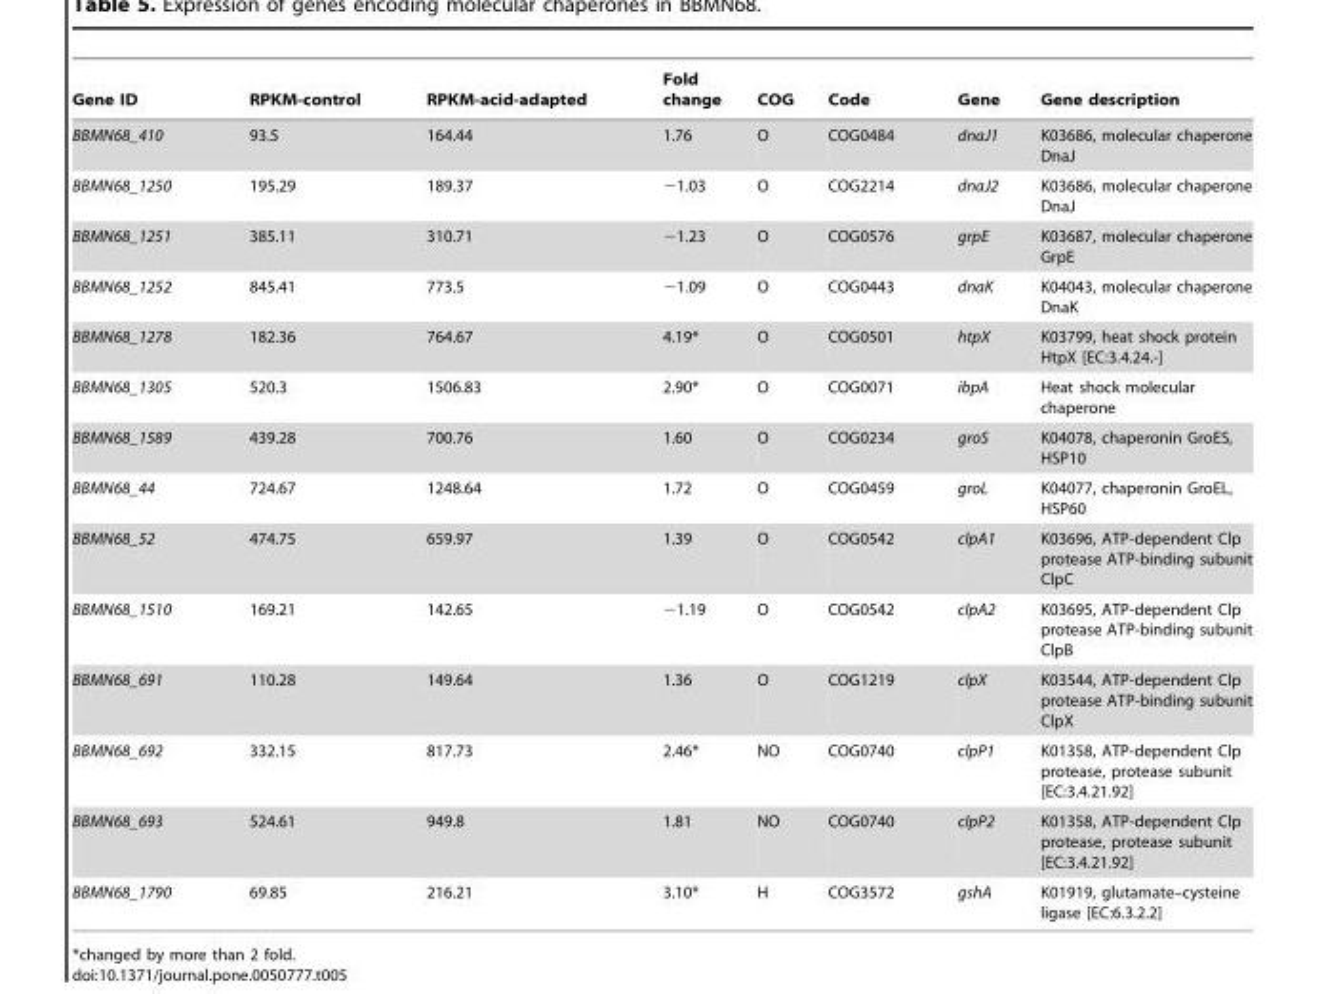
<table><thead><tr><td>Gene ID</td><td>RPKM-control</td><td>RPKM-acid-adapted</td><td>Fold change</td><td>COG</td><td>Code</td><td>Gene</td><td>Gene description</td></tr></thead><tbody><tr><td>BBMN68_410</td><td>93.5</td><td>164.44</td><td>1.76</td><td>O</td><td>COG0484</td><td>dnaJ1</td><td>K03686, molecular chaperone DnaJ</td></tr><tr><td>BBMN68_1250</td><td>195.29</td><td>189.37</td><td>−1.03</td><td>O</td><td>COG2214</td><td>dnaJ2</td><td>K03686, molecular chaperone DnaJ</td></tr><tr><td>BBMN68_1251</td><td>385.11</td><td>310.71</td><td>−1.23</td><td>O</td><td>COG0576</td><td>grpE</td><td>K03687, molecular chaperone GrpE</td></tr><tr><td>BBMN68_1252</td><td>845.41</td><td>773.5</td><td>−1.09</td><td>O</td><td>COG0443</td><td>dnaK</td><td>K04043, molecular chaperone DnaK</td></tr><tr><td>BBMN68_1278</td><td>182.36</td><td>764.67</td><td>4.19*</td><td>O</td><td>COG0501</td><td>htpX</td><td>K03799, heat shock protein HtpX [EC:3.4.24.-]</td></tr><tr><td>BBMN68_1305</td><td>520.3</td><td>1506.83</td><td>2.90*</td><td>O</td><td>COG0071</td><td>ibpA</td><td>Heat shock molecular chaperone</td></tr><tr><td>BBMN68_1589</td><td>439.28</td><td>700.76</td><td>1.60</td><td>O</td><td>COG0234</td><td>groS</td><td>K04078, chaperonin GroES, HSP10</td></tr><tr><td>BBMN68_44</td><td>724.67</td><td>1248.64</td><td>1.72</td><td>O</td><td>COG0459</td><td>groL</td><td>K04077, chaperonin GroEL, HSP60</td></tr><tr><td>BBMN68_52</td><td>474.75</td><td>659.97</td><td>1.39</td><td>O</td><td>COG0542</td><td>clpA1</td><td>K03696, ATP-dependent Clp protease ATP-binding subunit ClpC</td></tr><tr><td>BBMN68_1510</td><td>169.21</td><td>142.65</td><td>−1.19</td><td>O</td><td>COG0542</td><td>clpA2</td><td>K03695, ATP-dependent Clp protease ATP-binding subunit ClpB</td></tr><tr><td>BBMN68_691</td><td>110.28</td><td>149.64</td><td>1.36</td><td>O</td><td>COG1219</td><td>clpX</td><td>K03544, ATP-dependent Clp protease ATP-binding subunit ClpX</td></tr><tr><td>BBMN68_692</td><td>332.15</td><td>817.73</td><td>2.46*</td><td>NO</td><td>COG0740</td><td>clpP1</td><td>K01358, ATP-dependent Clp protease, protease subunit [EC:3.4.21.92]</td></tr><tr><td>BBMN68_693</td><td>524.61</td><td>949.8</td><td>1.81</td><td>NO</td><td>COG0740</td><td>clpP2</td><td>K01358, ATP-dependent Clp protease, protease subunit [EC:3.4.21.92]</td></tr><tr><td>BBMN68_1790</td><td>69.85</td><td>216.21</td><td>3.10*</td><td>H</td><td>COG3572</td><td>gshA</td><td>K01919, glutamate–cysteine ligase [EC:6.3.2.2]</td></tr></tbody></table>